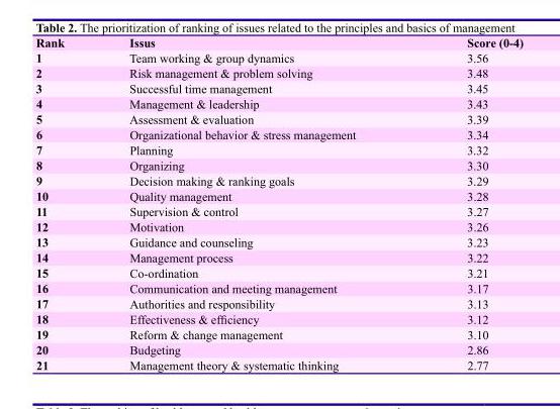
<table><thead><tr><td>Rank</td><td>Issus</td><td>Score (0-4)</td></tr></thead><tbody><tr><td>1</td><td>Team working &amp; group dynamics</td><td>3.56</td></tr><tr><td>2</td><td>Risk management &amp; problem solving</td><td>3.48</td></tr><tr><td>3</td><td>Successful time management</td><td>3.45</td></tr><tr><td>4</td><td>Management &amp; leadership</td><td>3.43</td></tr><tr><td>5</td><td>Assessment &amp; evaluation</td><td>3.39</td></tr><tr><td>6</td><td>Organizational behavior &amp; stress management</td><td>3.34</td></tr><tr><td>7</td><td>Planning</td><td>3.32</td></tr><tr><td>8</td><td>Organizing</td><td>3.30</td></tr><tr><td>9</td><td>Decision making &amp; ranking goals</td><td>3.29</td></tr><tr><td>10</td><td>Quality management</td><td>3.28</td></tr><tr><td>11</td><td>Supervision &amp; control</td><td>3.27</td></tr><tr><td>12</td><td>Motivation</td><td>3.26</td></tr><tr><td>13</td><td>Guidance and counseling</td><td>3.23</td></tr><tr><td>14</td><td>Management process</td><td>3.22</td></tr><tr><td>15</td><td>Co-ordination</td><td>3.21</td></tr><tr><td>16</td><td>Communication and meeting management</td><td>3.17</td></tr><tr><td>17</td><td>Authorities and responsibility</td><td>3.13</td></tr><tr><td>18</td><td>Effectiveness &amp; efficiency</td><td>3.12</td></tr><tr><td>19</td><td>Reform &amp; change management</td><td>3.10</td></tr><tr><td>20</td><td>Budgeting</td><td>2.86</td></tr><tr><td>21</td><td>Management theory &amp; systematic thinking</td><td>2.77</td></tr></tbody></table>